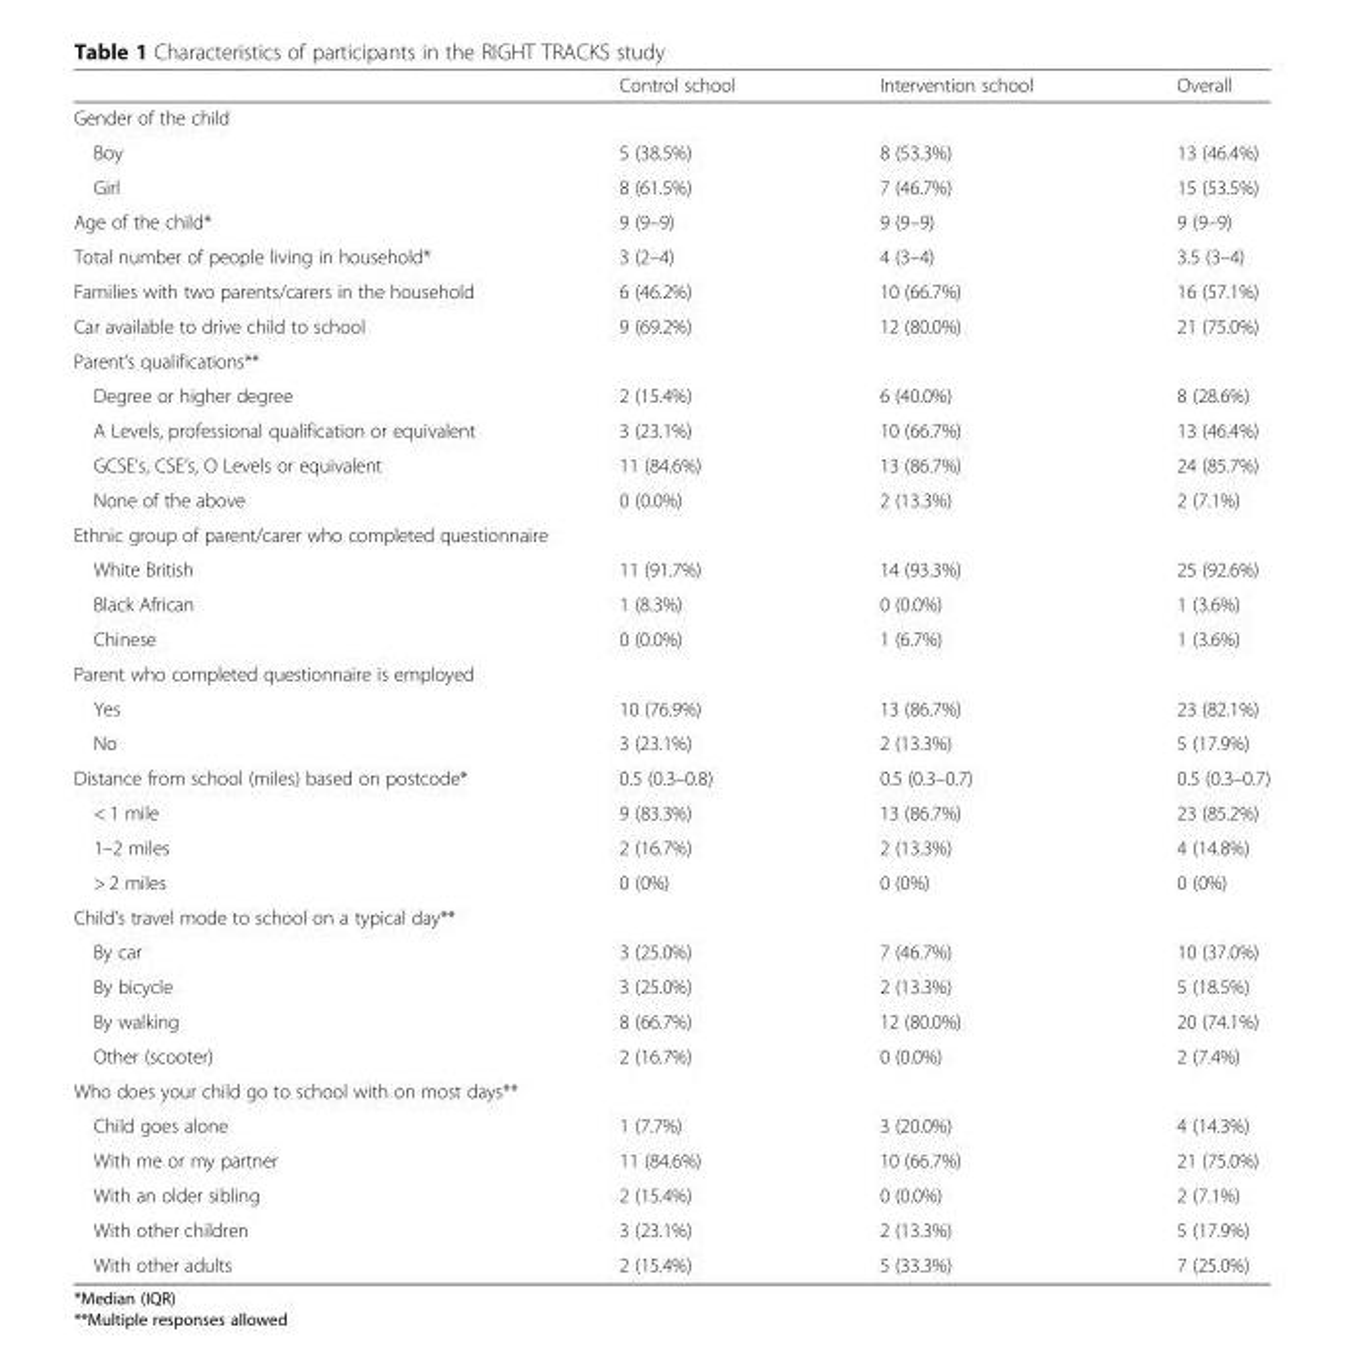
<table><thead><tr><td></td><td>Control school</td><td>Intervention school</td><td>Overall</td></tr></thead><tbody><tr><td colspan="4">Gender of the child</td></tr><tr><td>Boy</td><td>5 (38.5%)</td><td>8 (53.3%)</td><td>13 (46.4%)</td></tr><tr><td>Girl</td><td>8 (61.5%)</td><td>7 (46.7%)</td><td>15 (53.5%)</td></tr><tr><td>Age of the child*</td><td>9 (9–9)</td><td>9 (9–9)</td><td>9 (9–9)</td></tr><tr><td>Total number of people living in household*</td><td>3 (2–4)</td><td>4 (3–4)</td><td>3.5 (3–4)</td></tr><tr><td>Families with two parents/carers in the household</td><td>6 (46.2%)</td><td>10 (66.7%)</td><td>16 (57.1%)</td></tr><tr><td>Car available to drive child to school</td><td>9 (69.2%)</td><td>12 (80.0%)</td><td>21 (75.0%)</td></tr><tr><td colspan="4">Parent’s qualifications**</td></tr><tr><td>Degree or higher degree</td><td>2 (15.4%)</td><td>6 (40.0%)</td><td>8 (28.6%)</td></tr><tr><td>A Levels, professional qualification or equivalent</td><td>3 (23.1%)</td><td>10 (66.7%)</td><td>13 (46.4%)</td></tr><tr><td>GCSE’s, CSE’s, O Levels or equivalent</td><td>11 (84.6%)</td><td>13 (86.7%)</td><td>24 (85.7%)</td></tr><tr><td>None of the above</td><td>0 (0.0%)</td><td>2 (13.3%)</td><td>2 (7.1%)</td></tr><tr><td colspan="4">Ethnic group of parent/carer who completed questionnaire</td></tr><tr><td>White British</td><td>11 (91.7%)</td><td>14 (93.3%)</td><td>25 (92.6%)</td></tr><tr><td>Black African</td><td>1 (8.3%)</td><td>0 (0.0%)</td><td>1 (3.6%)</td></tr><tr><td>Chinese</td><td>0 (0.0%)</td><td>1 (6.7%)</td><td>1 (3.6%)</td></tr><tr><td colspan="4">Parent who completed questionnaire is employed</td></tr><tr><td>Yes</td><td>10 (76.9%)</td><td>13 (86.7%)</td><td>23 (82.1%)</td></tr><tr><td>No</td><td>3 (23.1%)</td><td>2 (13.3%)</td><td>5 (17.9%)</td></tr><tr><td>Distance from school (miles) based on postcode*</td><td>0.5 (0.3–0.8)</td><td>0.5 (0.3–0.7)</td><td>0.5 (0.3–0.7)</td></tr><tr><td>&lt; 1 mile</td><td>9 (83.3%)</td><td>13 (86.7%)</td><td>23 (85.2%)</td></tr><tr><td>1–2 miles</td><td>2 (16.7%)</td><td>2 (13.3%)</td><td>4 (14.8%)</td></tr><tr><td>&gt; 2 miles</td><td>0 (0%)</td><td>0 (0%)</td><td>0 (0%)</td></tr><tr><td colspan="4">Child’s travel mode to school on a typical day**</td></tr><tr><td>By car</td><td>3 (25.0%)</td><td>7 (46.7%)</td><td>10 (37.0%)</td></tr><tr><td>By bicycle</td><td>3 (25.0%)</td><td>2 (13.3%)</td><td>5 (18.5%)</td></tr><tr><td>By walking</td><td>8 (66.7%)</td><td>12 (80.0%)</td><td>20 (74.1%)</td></tr><tr><td>Other (scooter)</td><td>2 (16.7%)</td><td>0 (0.0%)</td><td>2 (7.4%)</td></tr><tr><td colspan="4">Who does your child go to school with on most days**</td></tr><tr><td>Child goes alone</td><td>1 (7.7%)</td><td>3 (20.0%)</td><td>4 (14.3%)</td></tr><tr><td>With me or my partner</td><td>11 (84.6%)</td><td>10 (66.7%)</td><td>21 (75.0%)</td></tr><tr><td>With an older sibling</td><td>2 (15.4%)</td><td>0 (0.0%)</td><td>2 (7.1%)</td></tr><tr><td>With other children</td><td>3 (23.1%)</td><td>2 (13.3%)</td><td>5 (17.9%)</td></tr><tr><td>With other adults</td><td>2 (15.4%)</td><td>5 (33.3%)</td><td>7 (25.0%)</td></tr></tbody></table>